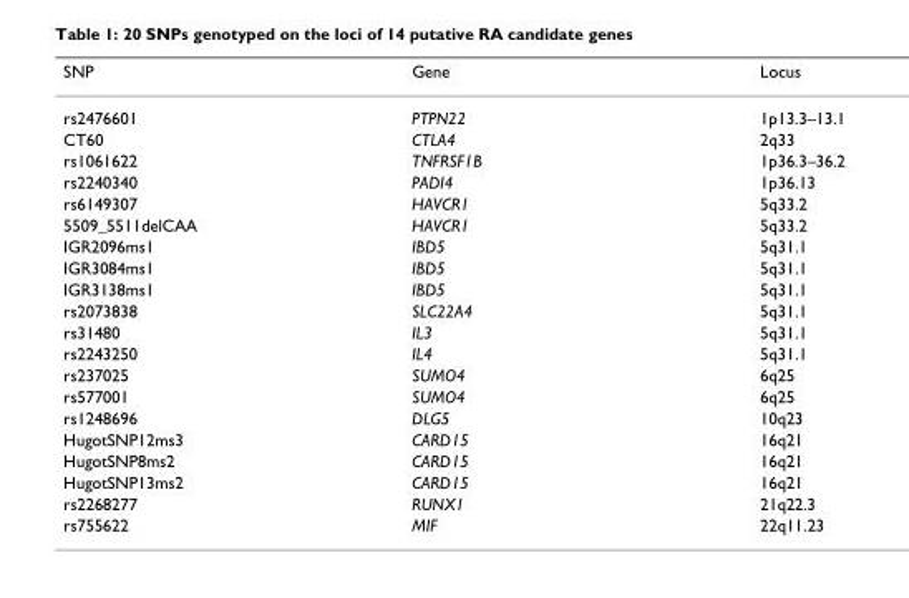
<table><thead><tr><td>SNP</td><td>Gene</td><td>Locus</td></tr></thead><tbody><tr><td>rs2476601</td><td>PTPN22</td><td>1p13.3–13.1</td></tr><tr><td>CT60</td><td>CTLA4</td><td>2q33</td></tr><tr><td>rs1061622</td><td>TNFRSF1B</td><td>1p36.3–36.2</td></tr><tr><td>rs2240340</td><td>PADI4</td><td>1p36.13</td></tr><tr><td>rs6149307</td><td>HAVCR1</td><td>5q33.2</td></tr><tr><td>5509_5511delCAA</td><td>HAVCR1</td><td>5q33.2</td></tr><tr><td>IGR2096ms1</td><td>IBD5</td><td>5q31.1</td></tr><tr><td>IGR3084ms1</td><td>IBD5</td><td>5q31.1</td></tr><tr><td>IGR3138ms1</td><td>IBD5</td><td>5q31.1</td></tr><tr><td>rs2073838</td><td>SLC22A4</td><td>5q31.1</td></tr><tr><td>rs31480</td><td>IL3</td><td>5q31.1</td></tr><tr><td>rs2243250</td><td>IL4</td><td>5q31.1</td></tr><tr><td>rs237025</td><td>SUMO4</td><td>6q25</td></tr><tr><td>rs577001</td><td>SUMO4</td><td>6q25</td></tr><tr><td>rs1248696</td><td>DLG5</td><td>10q23</td></tr><tr><td>HugotSNP12ms3</td><td>CARD15</td><td>16q21</td></tr><tr><td>HugotSNP8ms2</td><td>CARD15</td><td>16q21</td></tr><tr><td>HugotSNP13ms2</td><td>CARD15</td><td>16q21</td></tr><tr><td>rs2268277</td><td>RUNX1</td><td>21q22.3</td></tr><tr><td>rs755622</td><td>MIF</td><td>22q11.23</td></tr></tbody></table>